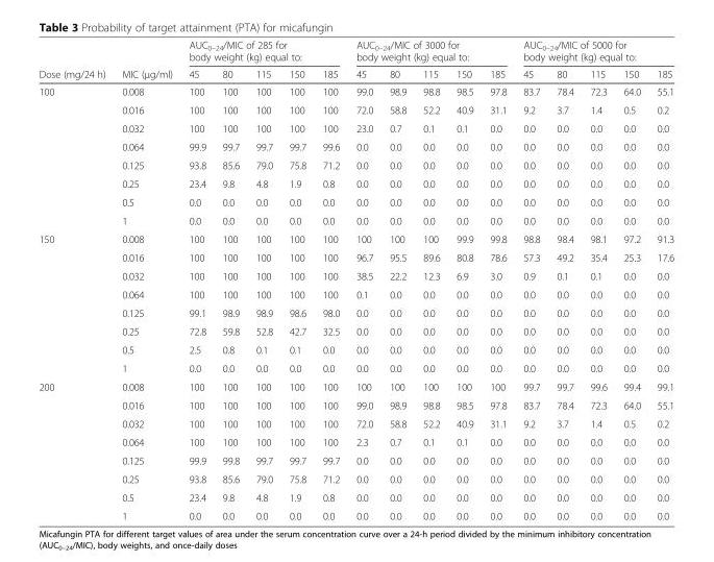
<table><thead><tr><td rowspan="2">Dose (mg/24 h)</td><td rowspan="2">MIC (μg/ml)</td><td colspan="5">AUC<sub>0–24</sub>/MIC of 285 for body weight (kg) equal to:</td><td colspan="5">AUC<sub>0–24</sub>/MIC of 3000 for body weight (kg) equal to:</td><td colspan="5">AUC<sub>0–24</sub>/MIC of 5000 for body weight (kg) equal to:</td></tr><tr><td>45</td><td>80</td><td>115</td><td>150</td><td>185</td><td>45</td><td>80</td><td>115</td><td>150</td><td>185</td><td>45</td><td>80</td><td>115</td><td>150</td><td>185</td></tr></thead><tbody><tr><td rowspan="8">100</td><td>0.008</td><td>100</td><td>100</td><td>100</td><td>100</td><td>100</td><td>99.0</td><td>98.9</td><td>98.8</td><td>98.5</td><td>97.8</td><td>83.7</td><td>78.4</td><td>72.3</td><td>64.0</td><td>55.1</td></tr><tr><td>0.016</td><td>100</td><td>100</td><td>100</td><td>100</td><td>100</td><td>72.0</td><td>58.8</td><td>52.2</td><td>40.9</td><td>31.1</td><td>9.2</td><td>3.7</td><td>1.4</td><td>0.5</td><td>0.2</td></tr><tr><td>0.032</td><td>100</td><td>100</td><td>100</td><td>100</td><td>100</td><td>23.0</td><td>0.7</td><td>0.1</td><td>0.1</td><td>0.0</td><td>0.0</td><td>0.0</td><td>0.0</td><td>0.0</td><td>0.0</td></tr><tr><td>0.064</td><td>99.9</td><td>99.7</td><td>99.7</td><td>99.7</td><td>99.6</td><td>0.0</td><td>0.0</td><td>0.0</td><td>0.0</td><td>0.0</td><td>0.0</td><td>0.0</td><td>0.0</td><td>0.0</td><td>0.0</td></tr><tr><td>0.125</td><td>93.8</td><td>85.6</td><td>79.0</td><td>75.8</td><td>71.2</td><td>0.0</td><td>0.0</td><td>0.0</td><td>0.0</td><td>0.0</td><td>0.0</td><td>0.0</td><td>0.0</td><td>0.0</td><td>0.0</td></tr><tr><td>0.25</td><td>23.4</td><td>9.8</td><td>4.8</td><td>1.9</td><td>0.8</td><td>0.0</td><td>0.0</td><td>0.0</td><td>0.0</td><td>0.0</td><td>0.0</td><td>0.0</td><td>0.0</td><td>0.0</td><td>0.0</td></tr><tr><td>0.5</td><td>0.0</td><td>0.0</td><td>0.0</td><td>0.0</td><td>0.0</td><td>0.0</td><td>0.0</td><td>0.0</td><td>0.0</td><td>0.0</td><td>0.0</td><td>0.0</td><td>0.0</td><td>0.0</td><td>0.0</td></tr><tr><td>1</td><td>0.0</td><td>0.0</td><td>0.0</td><td>0.0</td><td>0.0</td><td>0.0</td><td>0.0</td><td>0.0</td><td>0.0</td><td>0.0</td><td>0.0</td><td>0.0</td><td>0.0</td><td>0.0</td><td>0.0</td></tr><tr><td rowspan="8">150</td><td>0.008</td><td>100</td><td>100</td><td>100</td><td>100</td><td>100</td><td>100</td><td>100</td><td>100</td><td>99.9</td><td>99.8</td><td>98.8</td><td>98.4</td><td>98.1</td><td>97.2</td><td>91.3</td></tr><tr><td>0.016</td><td>100</td><td>100</td><td>100</td><td>100</td><td>100</td><td>96.7</td><td>95.5</td><td>89.6</td><td>80.8</td><td>78.6</td><td>57.3</td><td>49.2</td><td>35.4</td><td>25.3</td><td>17.6</td></tr><tr><td>0.032</td><td>100</td><td>100</td><td>100</td><td>100</td><td>100</td><td>38.5</td><td>22.2</td><td>12.3</td><td>6.9</td><td>3.0</td><td>0.9</td><td>0.1</td><td>0.1</td><td>0.0</td><td>0.0</td></tr><tr><td>0.064</td><td>100</td><td>100</td><td>100</td><td>100</td><td>100</td><td>0.1</td><td>0.0</td><td>0.0</td><td>0.0</td><td>0.0</td><td>0.0</td><td>0.0</td><td>0.0</td><td>0.0</td><td>0.0</td></tr><tr><td>0.125</td><td>99.1</td><td>98.9</td><td>98.9</td><td>98.6</td><td>98.0</td><td>0.0</td><td>0.0</td><td>0.0</td><td>0.0</td><td>0.0</td><td>0.0</td><td>0.0</td><td>0.0</td><td>0.0</td><td>0.0</td></tr><tr><td>0.25</td><td>72.8</td><td>59.8</td><td>52.8</td><td>42.7</td><td>32.5</td><td>0.0</td><td>0.0</td><td>0.0</td><td>0.0</td><td>0.0</td><td>0.0</td><td>0.0</td><td>0.0</td><td>0.0</td><td>0.0</td></tr><tr><td>0.5</td><td>2.5</td><td>0.8</td><td>0.1</td><td>0.1</td><td>0.0</td><td>0.0</td><td>0.0</td><td>0.0</td><td>0.0</td><td>0.0</td><td>0.0</td><td>0.0</td><td>0.0</td><td>0.0</td><td>0.0</td></tr><tr><td>1</td><td>0.0</td><td>0.0</td><td>0.0</td><td>0.0</td><td>0.0</td><td>0.0</td><td>0.0</td><td>0.0</td><td>0.0</td><td>0.0</td><td>0.0</td><td>0.0</td><td>0.0</td><td>0.0</td><td>0.0</td></tr><tr><td rowspan="8">200</td><td>0.008</td><td>100</td><td>100</td><td>100</td><td>100</td><td>100</td><td>100</td><td>100</td><td>100</td><td>100</td><td>100</td><td>99.7</td><td>99.7</td><td>99.6</td><td>99.4</td><td>99.1</td></tr><tr><td>0.016</td><td>100</td><td>100</td><td>100</td><td>100</td><td>100</td><td>99.0</td><td>98.9</td><td>98.8</td><td>98.5</td><td>97.8</td><td>83.7</td><td>78.4</td><td>72.3</td><td>64.0</td><td>55.1</td></tr><tr><td>0.032</td><td>100</td><td>100</td><td>100</td><td>100</td><td>100</td><td>72.0</td><td>58.8</td><td>52.2</td><td>40.9</td><td>31.1</td><td>9.2</td><td>3.7</td><td>1.4</td><td>0.5</td><td>0.2</td></tr><tr><td>0.064</td><td>100</td><td>100</td><td>100</td><td>100</td><td>100</td><td>2.3</td><td>0.7</td><td>0.1</td><td>0.1</td><td>0.0</td><td>0.0</td><td>0.0</td><td>0.0</td><td>0.0</td><td>0.0</td></tr><tr><td>0.125</td><td>99.9</td><td>99.8</td><td>99.7</td><td>99.7</td><td>99.7</td><td>0.0</td><td>0.0</td><td>0.0</td><td>0.0</td><td>0.0</td><td>0.0</td><td>0.0</td><td>0.0</td><td>0.0</td><td>0.0</td></tr><tr><td>0.25</td><td>93.8</td><td>85.6</td><td>79.0</td><td>75.8</td><td>71.2</td><td>0.0</td><td>0.0</td><td>0.0</td><td>0.0</td><td>0.0</td><td>0.0</td><td>0.0</td><td>0.0</td><td>0.0</td><td>0.0</td></tr><tr><td>0.5</td><td>23.4</td><td>9.8</td><td>4.8</td><td>1.9</td><td>0.8</td><td>0.0</td><td>0.0</td><td>0.0</td><td>0.0</td><td>0.0</td><td>0.0</td><td>0.0</td><td>0.0</td><td>0.0</td><td>0.0</td></tr><tr><td>1</td><td>0.0</td><td>0.0</td><td>0.0</td><td>0.0</td><td>0.0</td><td>0.0</td><td>0.0</td><td>0.0</td><td>0.0</td><td>0.0</td><td>0.0</td><td>0.0</td><td>0.0</td><td>0.0</td><td>0.0</td></tr></tbody></table>